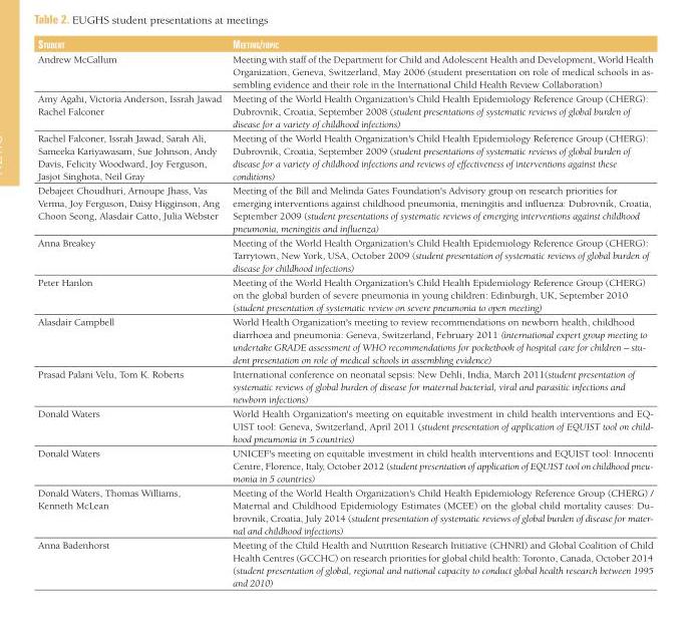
<table><thead><tr><td>student</td><td>Meeting/topic</td></tr></thead><tbody><tr><td>Andrew McCallum</td><td>Meeting with staff of the Department for Child and Adolescent Health and Development, World Health Organization, Geneva, Switzerland, May 2006 (student presentation on role of medical schools in as- sembling evidence and their role in the International Child Health Review Collaboration)</td></tr><tr><td>Amy Agahi, Victoria Anderson, Issrah Jawad Rachel Falconer</td><td>Meeting of the World Health Organization&#x27;s Child Health Epidemiology Reference Group (CHERG): Dubrovnik, Croatia, September 2008 (student presentations of systematic reviews of global burden of disease for a variety of childhood infections)</td></tr><tr><td>Rachel Falconer, Issrah Jawad, Sarah Ali, Sameeka Kariyawasam, Sue Johnson, Andy Davis, Felicity Woodward, Joy Ferguson, Jasjot Singhota, Neil Gray</td><td>Meeting of the World Health Organization&#x27;s Child Health Epidemiology Reference Group (CHERG): Dubrovnik, Croatia, September 2009 (student presentations of systematic reviews of global burden of disease for a variety of childhood infections and reviews of effectiveness of interventions against these conditions)</td></tr><tr><td>Debajeet Choudhuri, Arnoupe Jhass, Vas Verma, Joy Ferguson, Daisy Higginson, Ang Choon Seong, Alasdair Catto, Julia Webster</td><td>Meeting of the Bill and Melinda Gates Foundation&#x27;s Advisory group on research priorities for emerging interventions against childhood pneumonia, meningitis and influenza: Dubrovnik, Croatia, September 2009 (student presentations of systematic reviews of emerging interventions against childhood pneumonia, meningitis and influenza)</td></tr><tr><td>Anna Breakey</td><td>Meeting of the World Health Organization&#x27;s Child Health Epidemiology Reference Group (CHERG): Tarrytown, New York, USA, October 2009 (student presentation of systematic reviews of global burden of disease for childhood infections)</td></tr><tr><td>Peter Hanlon</td><td>Meeting of the World Health Organization&#x27;s Child Health Epidemiology Reference Group (CHERG) on the global burden of severe pneumonia in young children: Edinburgh, UK, September 2010 (student presentation of systematic review on severe pneumonia to open meeting)</td></tr><tr><td>Alasdair Campbell</td><td>World Health Organization&#x27;s meeting to review recommendations on newborn health, childhood diarrhoea and pneumonia: Geneva, Switzerland, February 2011 (international expert group meeting to undertake GRADE assessment of WHO recommendations for pocketbook of hospital care for children – stu- dent presentation on role of medical schools in assembling evidence)</td></tr><tr><td>Prasad Palani Velu, Tom K. Roberts</td><td>International conference on neonatal sepsis: New Dehli, India, March 2011(student presentation of systematic reviews of global burden of disease for maternal bacterial, viral and parasitic infections and newborn infections)</td></tr><tr><td>Donald Waters</td><td>World Health Organization&#x27;s meeting on equitable investment in child health interventions and EQ- UIST tool: Geneva, Switzerland, April 2011 (student presentation of application of EQUIST tool on child- hood pneumonia in 5 countries)</td></tr><tr><td>Donald Waters</td><td>UNICEF&#x27;s meeting on equitable investment in child health interventions and EQUIST tool: Innocenti Centre, Florence, Italy, October 2012 (student presentation of application of EQUIST tool on childhood pneu- monia in 5 countries)</td></tr><tr><td>Donald Waters, Thomas Williams, Kenneth McLean</td><td>Meeting of the World Health Organization&#x27;s Child Health Epidemiology Reference Group (CHERG) / Maternal and Childhood Epidemiology Estimates (MCEE) on the global child mortality causes: Du- brovnik, Croatia, July 2014 (student presentation of systematic reviews of global burden of disease for mater- nal and childhood infections)</td></tr><tr><td>Anna Badenhorst</td><td>Meeting of the Child Health and Nutrition Research Initiative (CHNRI) and Global Coalition of Child Health Centres (GCCHC) on research priorities for global child health: Toronto, Canada, October 2014 (student presentation of global, regional and national capacity to conduct global health research between 1995 and 2010)</td></tr></tbody></table>